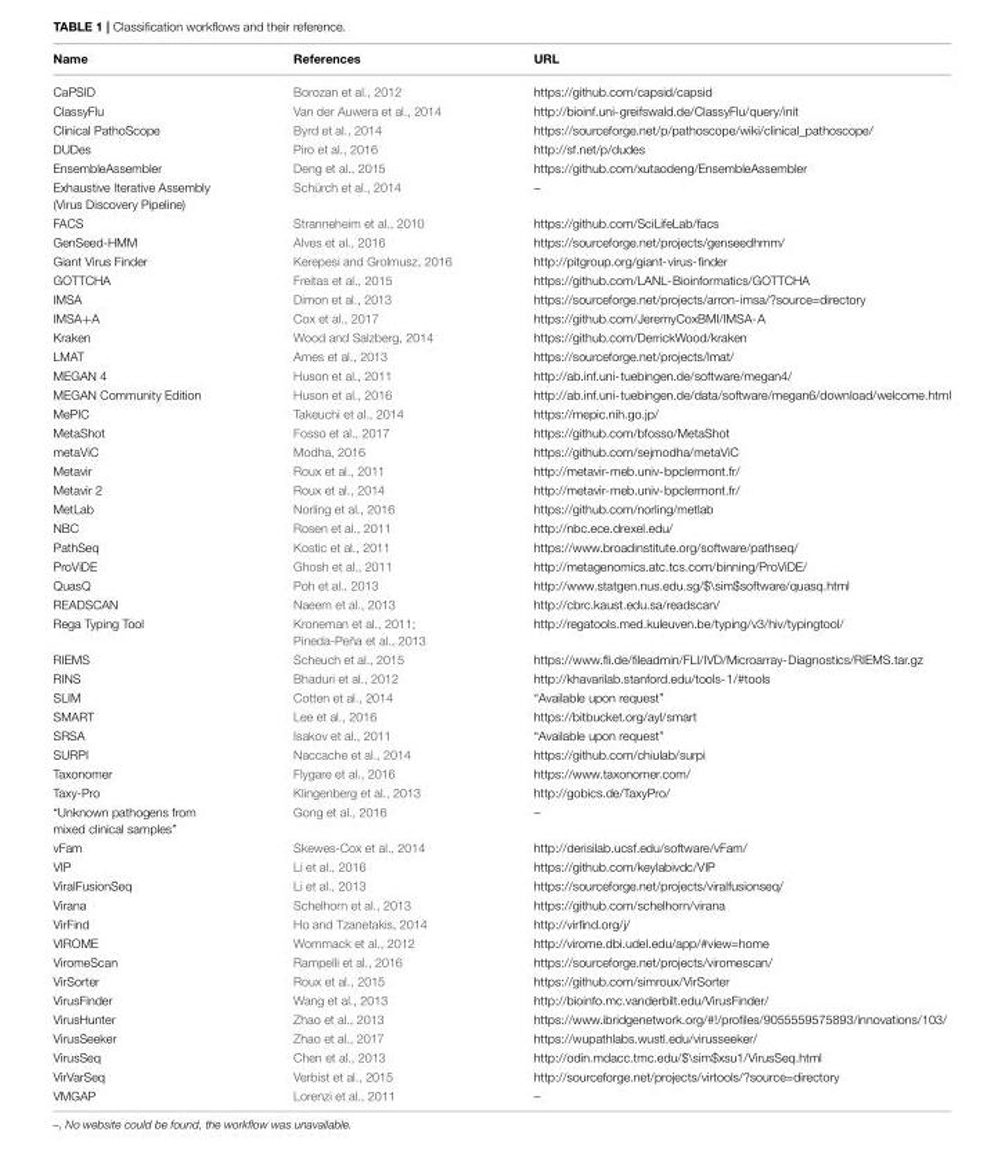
<table><thead><tr><td>Name</td><td>References</td><td>URL</td></tr></thead><tbody><tr><td>CaPSID</td><td>Borozan et al., 2012</td><td>https://github.com/capsid/capsid</td></tr><tr><td>ClassyFlu</td><td>Van der Auwera et al., 2014</td><td>http://bioinf.uni-greifswald.de/ClassyFlu/query/init</td></tr><tr><td>Clinical PathoScope</td><td>Byrd et al., 2014</td><td>https://sourceforge.net/p/pathoscope/wiki/clinical_pathoscope/</td></tr><tr><td>DUDes</td><td>Piro et al., 2016</td><td>http://sf.net/p/dudes</td></tr><tr><td>EnsembleAssembler</td><td>Deng et al., 2015</td><td>https://github.com/xutaodeng/EnsembleAssembler</td></tr><tr><td>Exhaustive Iterative Assembly (Virus Discovery Pipeline)</td><td>Schürch et al., 2014</td><td>–</td></tr><tr><td>FACS</td><td>Stranneheim et al., 2010</td><td>https://github.com/SciLifeLab/facs</td></tr><tr><td>GenSeed-HMM</td><td>Alves et al., 2016</td><td>https://sourceforge.net/projects/genseedhmm/</td></tr><tr><td>Giant Virus Finder</td><td>Kerepesi and Grolmusz, 2016</td><td>http://pitgroup.org/giant-virus-finder</td></tr><tr><td>GOTTCHA</td><td>Freitas et al., 2015</td><td>https://github.com/LANL-Bioinformatics/GOTTCHA</td></tr><tr><td>IMSA</td><td>Dimon et al., 2013</td><td>https://sourceforge.net/projects/arron-imsa/?source=directory</td></tr><tr><td>IMSA+A</td><td>Cox et al., 2017</td><td>https://github.com/JeremyCoxBMI/IMSA-A</td></tr><tr><td>Kraken</td><td>Wood and Salzberg, 2014</td><td>https://github.com/DerrickWood/kraken</td></tr><tr><td>LMAT</td><td>Ames et al., 2013</td><td>https://sourceforge.net/projects/lmat/</td></tr><tr><td>MEGAN 4</td><td>Huson et al., 2011</td><td>http://ab.inf.uni-tuebingen.de/software/megan4/</td></tr><tr><td>MEGAN Community Edition</td><td>Huson et al., 2016</td><td>http://ab.inf.uni-tuebingen.de/data/software/megan6/download/welcome.html</td></tr><tr><td>MePIC</td><td>Takeuchi et al., 2014</td><td>https://mepic.nih.go.jp/</td></tr><tr><td>MetaShot</td><td>Fosso et al., 2017</td><td>https://github.com/bfosso/MetaShot</td></tr><tr><td>metaViC</td><td>Modha, 2016</td><td>https://github.com/sejmodha/metaViC</td></tr><tr><td>Metavir</td><td>Roux et al., 2011</td><td>http://metavir-meb.univ-bpclermont.fr/</td></tr><tr><td>Metavir 2</td><td>Roux et al., 2014</td><td>http://metavir-meb.univ-bpclermont.fr/</td></tr><tr><td>MetLab</td><td>Norling et al., 2016</td><td>https://github.com/norling/metlab</td></tr><tr><td>NBC</td><td>Rosen et al., 2011</td><td>http://nbc.ece.drexel.edu/</td></tr><tr><td>PathSeq</td><td>Kostic et al., 2011</td><td>https://www.broadinstitute.org/software/pathseq/</td></tr><tr><td>ProViDE</td><td>Ghosh et al., 2011</td><td>http://metagenomics.atc.tcs.com/binning/ProViDE/</td></tr><tr><td>QuasQ</td><td>Poh et al., 2013</td><td>http://www.statgen.nus.edu.sg/$\sim$software/quasq.html</td></tr><tr><td>READSCAN</td><td>Naeem et al., 2013</td><td>http://cbrc.kaust.edu.sa/readscan/</td></tr><tr><td>Rega Typing Tool</td><td>Kroneman et al., 2011; Pineda-Peña et al., 2013</td><td>http://regatools.med.kuleuven.be/typing/v3/hiv/typingtool/</td></tr><tr><td>RIEMS</td><td>Scheuch et al., 2015</td><td>https://www.fli.de/fileadmin/FLI/IVD/Microarray-Diagnostics/RIEMS.tar.gz</td></tr><tr><td>RINS</td><td>Bhaduri et al., 2012</td><td>http://khavarilab.stanford.edu/tools-1/#tools</td></tr><tr><td>SLIM</td><td>Cotten et al., 2014</td><td>“Available upon request”</td></tr><tr><td>SMART</td><td>Lee et al., 2016</td><td>https://bitbucket.org/ayl/smart</td></tr><tr><td>SRSA</td><td>Isakov et al., 2011</td><td>“Available upon request”</td></tr><tr><td>SURPI</td><td>Naccache et al., 2014</td><td>https://github.com/chiulab/surpi</td></tr><tr><td>Taxonomer</td><td>Flygare et al., 2016</td><td>https://www.taxonomer.com/</td></tr><tr><td>Taxy-Pro</td><td>Klingenberg et al., 2013</td><td>http://gobics.de/TaxyPro/</td></tr><tr><td>“Unknown pathogens from mixed clinical samples”</td><td>Gong et al., 2016</td><td>–</td></tr><tr><td>vFam</td><td>Skewes-Cox et al., 2014</td><td>http://derisilab.ucsf.edu/software/vFam/</td></tr><tr><td>VIP</td><td>Li et al., 2016</td><td>https://github.com/keylabivdc/VIP</td></tr><tr><td>ViralFusionSeq</td><td>Li et al., 2013</td><td>https://sourceforge.net/projects/viralfusionseq/</td></tr><tr><td>Virana</td><td>Schelhorn et al., 2013</td><td>https://github.com/schelhorn/virana</td></tr><tr><td>VirFind</td><td>Ho and Tzanetakis, 2014</td><td>http://virfind.org/j/</td></tr><tr><td>VIROME</td><td>Wommack et al., 2012</td><td>http://virome.dbi.udel.edu/app/#view=home</td></tr><tr><td>ViromeScan</td><td>Rampelli et al., 2016</td><td>https://sourceforge.net/projects/viromescan/</td></tr><tr><td>VirSorter</td><td>Roux et al., 2015</td><td>https://github.com/simroux/VirSorter</td></tr><tr><td>VirusFinder</td><td>Wang et al., 2013</td><td>http://bioinfo.mc.vanderbilt.edu/VirusFinder/</td></tr><tr><td>VirusHunter</td><td>Zhao et al., 2013</td><td>https://www.ibridgenetwork.org/#!/profiles/9055559575893/innovations/103/</td></tr><tr><td>VirusSeeker</td><td>Zhao et al., 2017</td><td>https://wupathlabs.wustl.edu/virusseeker/</td></tr><tr><td>VirusSeq</td><td>Chen et al., 2013</td><td>http://odin.mdacc.tmc.edu/$\sim$xsu1/VirusSeq.html</td></tr><tr><td>VirVarSeq</td><td>Verbist et al., 2015</td><td>http://sourceforge.net/projects/virtools/?source=directory</td></tr><tr><td>VMGAP</td><td>Lorenzi et al., 2011</td><td>–</td></tr></tbody></table>